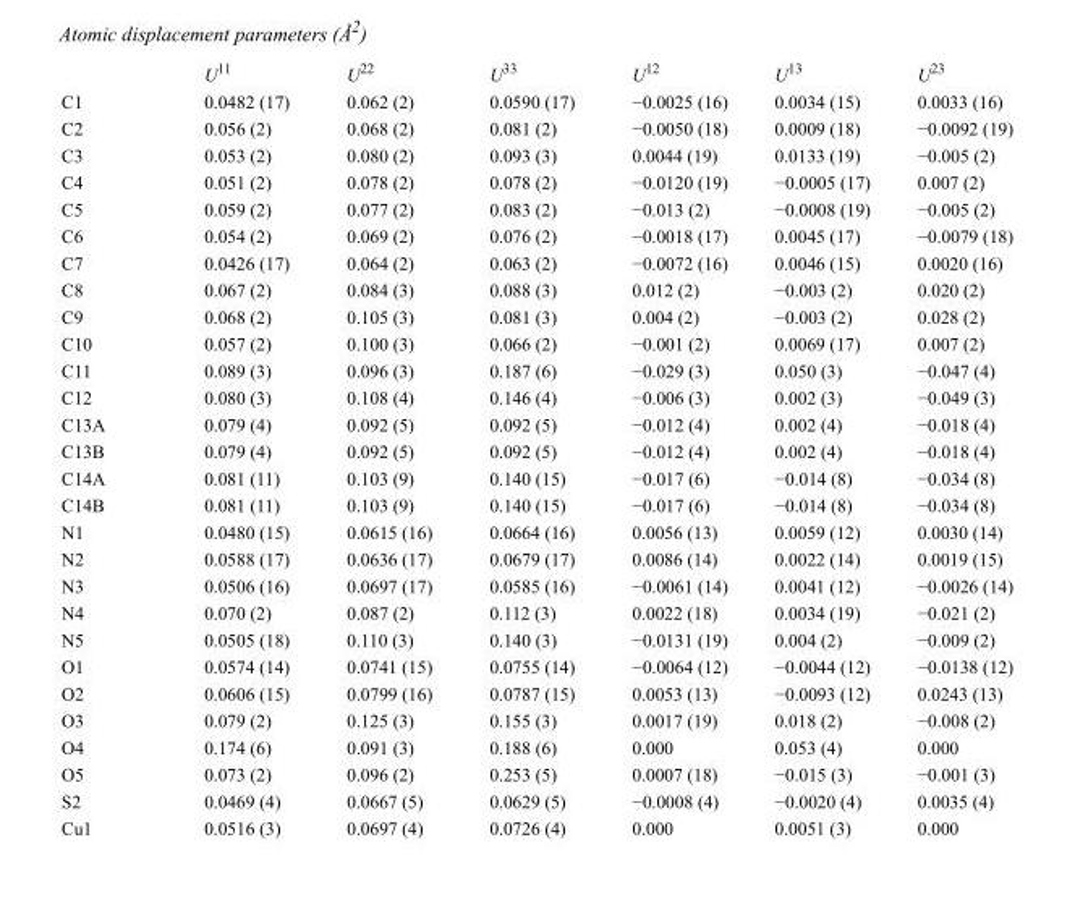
<table><thead><tr><td></td><td>U<sup>11</sup></td><td>U<sup>22</sup></td><td>U<sup>33</sup></td><td>U<sup>12</sup></td><td>U<sup>13</sup></td><td>U<sup>23</sup></td></tr></thead><tbody><tr><td>C1</td><td>0.0482 (17)</td><td>0.062 (2)</td><td>0.0590 (17)</td><td>−0.0025 (16)</td><td>0.0034 (15)</td><td>0.0033 (16)</td></tr><tr><td>C2</td><td>0.056 (2)</td><td>0.068 (2)</td><td>0.081 (2)</td><td>−0.0050 (18)</td><td>0.0009 (18)</td><td>−0.0092 (19)</td></tr><tr><td>C3</td><td>0.053 (2)</td><td>0.080 (2)</td><td>0.093 (3)</td><td>0.0044 (19)</td><td>0.0133 (19)</td><td>−0.005 (2)</td></tr><tr><td>C4</td><td>0.051 (2)</td><td>0.078 (2)</td><td>0.078 (2)</td><td>−0.0120 (19)</td><td>−0.0005 (17)</td><td>0.007 (2)</td></tr><tr><td>C5</td><td>0.059 (2)</td><td>0.077 (2)</td><td>0.083 (2)</td><td>−0.013 (2)</td><td>−0.0008 (19)</td><td>−0.005 (2)</td></tr><tr><td>C6</td><td>0.054 (2)</td><td>0.069 (2)</td><td>0.076 (2)</td><td>−0.0018 (17)</td><td>0.0045 (17)</td><td>−0.0079 (18)</td></tr><tr><td>C7</td><td>0.0426 (17)</td><td>0.064 (2)</td><td>0.063 (2)</td><td>−0.0072 (16)</td><td>0.0046 (15)</td><td>0.0020 (16)</td></tr><tr><td>C8</td><td>0.067 (2)</td><td>0.084 (3)</td><td>0.088 (3)</td><td>0.012 (2)</td><td>−0.003 (2)</td><td>0.020 (2)</td></tr><tr><td>C9</td><td>0.068 (2)</td><td>0.105 (3)</td><td>0.081 (3)</td><td>0.004 (2)</td><td>−0.003 (2)</td><td>0.028 (2)</td></tr><tr><td>C10</td><td>0.057 (2)</td><td>0.100 (3)</td><td>0.066 (2)</td><td>−0.001 (2)</td><td>0.0069 (17)</td><td>0.007 (2)</td></tr><tr><td>C11</td><td>0.089 (3)</td><td>0.096 (3)</td><td>0.187 (6)</td><td>−0.029 (3)</td><td>0.050 (3)</td><td>−0.047 (4)</td></tr><tr><td>C12</td><td>0.080 (3)</td><td>0.108 (4)</td><td>0.146 (4)</td><td>−0.006 (3)</td><td>0.002 (3)</td><td>−0.049 (3)</td></tr><tr><td>C13A</td><td>0.079 (4)</td><td>0.092 (5)</td><td>0.092 (5)</td><td>−0.012 (4)</td><td>0.002 (4)</td><td>−0.018 (4)</td></tr><tr><td>C13B</td><td>0.079 (4)</td><td>0.092 (5)</td><td>0.092 (5)</td><td>−0.012 (4)</td><td>0.002 (4)</td><td>−0.018 (4)</td></tr><tr><td>C14A</td><td>0.081 (11)</td><td>0.103 (9)</td><td>0.140 (15)</td><td>−0.017 (6)</td><td>−0.014 (8)</td><td>−0.034 (8)</td></tr><tr><td>C14B</td><td>0.081 (11)</td><td>0.103 (9)</td><td>0.140 (15)</td><td>−0.017 (6)</td><td>−0.014 (8)</td><td>−0.034 (8)</td></tr><tr><td>N1</td><td>0.0480 (15)</td><td>0.0615 (16)</td><td>0.0664 (16)</td><td>0.0056 (13)</td><td>0.0059 (12)</td><td>0.0030 (14)</td></tr><tr><td>N2</td><td>0.0588 (17)</td><td>0.0636 (17)</td><td>0.0679 (17)</td><td>0.0086 (14)</td><td>0.0022 (14)</td><td>0.0019 (15)</td></tr><tr><td>N3</td><td>0.0506 (16)</td><td>0.0697 (17)</td><td>0.0585 (16)</td><td>−0.0061 (14)</td><td>0.0041 (12)</td><td>−0.0026 (14)</td></tr><tr><td>N4</td><td>0.070 (2)</td><td>0.087 (2)</td><td>0.112 (3)</td><td>0.0022 (18)</td><td>0.0034 (19)</td><td>−0.021 (2)</td></tr><tr><td>N5</td><td>0.0505 (18)</td><td>0.110 (3)</td><td>0.140 (3)</td><td>−0.0131 (19)</td><td>0.004 (2)</td><td>−0.009 (2)</td></tr><tr><td>O1</td><td>0.0574 (14)</td><td>0.0741 (15)</td><td>0.0755 (14)</td><td>−0.0064 (12)</td><td>−0.0044 (12)</td><td>−0.0138 (12)</td></tr><tr><td>O2</td><td>0.0606 (15)</td><td>0.0799 (16)</td><td>0.0787 (15)</td><td>0.0053 (13)</td><td>−0.0093 (12)</td><td>0.0243 (13)</td></tr><tr><td>O3</td><td>0.079 (2)</td><td>0.125 (3)</td><td>0.155 (3)</td><td>0.0017 (19)</td><td>0.018 (2)</td><td>−0.008 (2)</td></tr><tr><td>O4</td><td>0.174 (6)</td><td>0.091 (3)</td><td>0.188 (6)</td><td>0.000</td><td>0.053 (4)</td><td>0.000</td></tr><tr><td>O5</td><td>0.073 (2)</td><td>0.096 (2)</td><td>0.253 (5)</td><td>0.0007 (18)</td><td>−0.015 (3)</td><td>−0.001 (3)</td></tr><tr><td>S2</td><td>0.0469 (4)</td><td>0.0667 (5)</td><td>0.0629 (5)</td><td>−0.0008 (4)</td><td>−0.0020 (4)</td><td>0.0035 (4)</td></tr><tr><td>Cu1</td><td>0.0516 (3)</td><td>0.0697 (4)</td><td>0.0726 (4)</td><td>0.000</td><td>0.0051 (3)</td><td>0.000</td></tr></tbody></table>